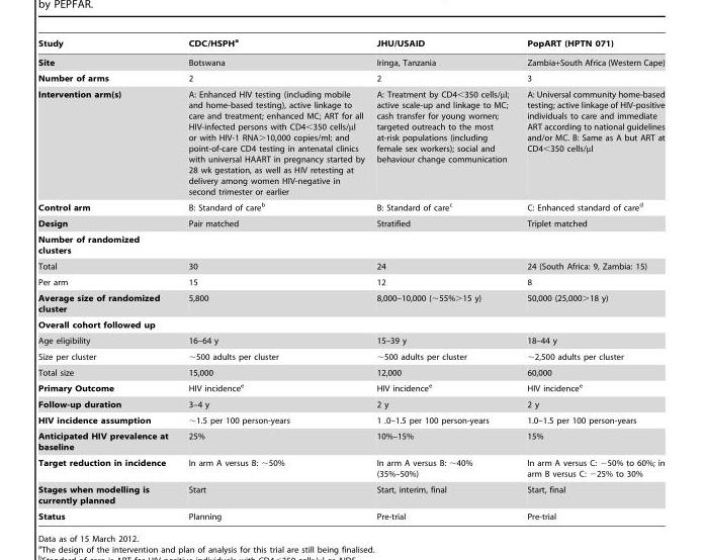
<table><thead><tr><td>Study</td><td>CDC/HSPH<sup>a</sup></td><td>JHU/USAID</td><td>PopART (HPTN 071)</td></tr></thead><tbody><tr><td>Site</td><td>Botswana</td><td>Iringa, Tanzania</td><td>Zambia+South Africa (Western Cape)</td></tr><tr><td>Number of arms</td><td>2</td><td>2</td><td>3</td></tr><tr><td>Intervention arm(s)</td><td>A: Enhanced HIV testing (including mobile and home-based testing), active linkage to care and treatment; enhanced MC; ART for all HIV-infected persons with CD4&lt;350 cells/µl or with HIV-1 RNA&gt;10,000 copies/ml; and point-of-care CD4 testing in antenatal clinics with universal HAART in pregnancy started by 28 wk gestation, as well as HIV retesting at delivery among women HIV-negative in second trimester or earlier</td><td>A: Treatment by CD4&lt;350 cells/µl; active scale-up and linkage to MC; cash transfer for young women; targeted outreach to the most at-risk populations (including female sex workers); social and behaviour change communication</td><td>A: Universal community home-based testing; active linkage of HIV-positive individuals to care and immediate ART according to national guidelines and/or MC. B: Same as A but ART at CD4&lt;350 cells/µl</td></tr><tr><td>Control arm</td><td>B: Standard of care<sup>b</sup></td><td>B: Standard of care<sup>c</sup></td><td>C: Enhanced standard of care<sup>d</sup></td></tr><tr><td>Design</td><td>Pair matched</td><td>Stratified</td><td>Triplet matched</td></tr><tr><td colspan="4">Number of randomized clusters</td></tr><tr><td>Total</td><td>30</td><td>24</td><td>24 (South Africa: 9, Zambia: 15)</td></tr><tr><td>Per arm</td><td>15</td><td>12</td><td>8</td></tr><tr><td>Average size of randomized cluster</td><td>5,800</td><td>8,000–10,000 (∼55%&gt;15 y)</td><td>50,000 (25,000&gt;18 y)</td></tr><tr><td colspan="4">Overall cohort followed up</td></tr><tr><td>Age eligibility</td><td>16–64 y</td><td>15–39 y</td><td>18–44 y</td></tr><tr><td>Size per cluster</td><td>∼500 adults per cluster</td><td>∼500 adults per cluster</td><td>∼2,500 adults per cluster</td></tr><tr><td>Total size</td><td>15,000</td><td>12,000</td><td>60,000</td></tr><tr><td>Primary Outcome</td><td>HIV incidence<sup>e</sup></td><td>HIV incidence<sup>e</sup></td><td>HIV incidence<sup>e</sup></td></tr><tr><td>Follow-up duration</td><td>3–4 y</td><td>2 y</td><td>2 y</td></tr><tr><td>HIV incidence assumption</td><td>∼1.5 per 100 person-years</td><td>1 .0–1.5 per 100 person-years</td><td>1.0–1.5 per 100 person-years</td></tr><tr><td>Anticipated HIV prevalence at baseline</td><td>25%</td><td>10%–15%</td><td>15%</td></tr><tr><td>Target reduction in incidence</td><td>In arm A versus B: ∼50%</td><td>In arm A versus B: ∼40% (35%–50%)</td><td>In arm A versus C: −50% to 60%; in arm B versus C: −25% to 30%</td></tr><tr><td>Stages when modelling is currently planned</td><td>Start</td><td>Start, interim, final</td><td>Start, final</td></tr><tr><td>Status</td><td>Planning</td><td>Pre-trial</td><td>Pre-trial</td></tr></tbody></table>